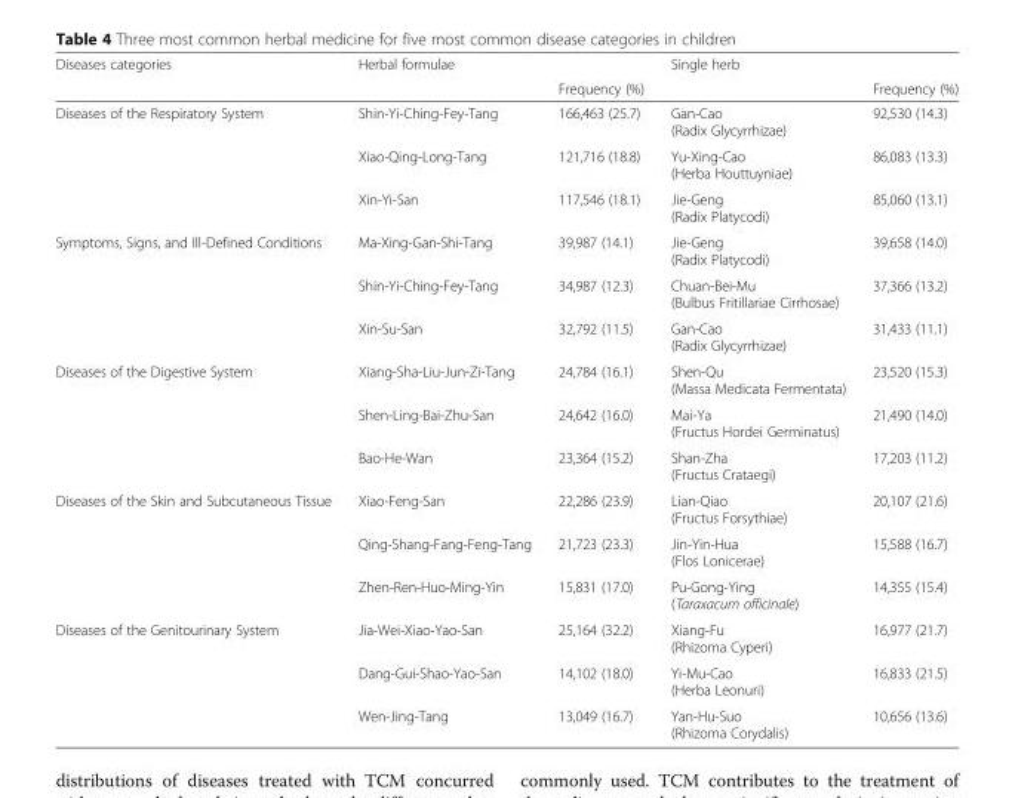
<table><thead><tr><td rowspan="2">Diseases categories</td><td colspan="2">Herbal formulae</td><td colspan="2">Single herb</td></tr><tr><td></td><td>Frequency (%)</td><td></td><td>Frequency (%)</td></tr></thead><tbody><tr><td rowspan="3">Diseases of the Respiratory System</td><td>Shin-Yi-Ching-Fey-Tang</td><td>166,463 (25.7)</td><td>Gan-Cao (Radix Glycyrrhizae)</td><td>92,530 (14.3)</td></tr><tr><td>Xiao-Qing-Long-Tang</td><td>121,716 (18.8)</td><td>Yu-Xing-Cao (Herba Houttuyniae)</td><td>86,083 (13.3)</td></tr><tr><td>Xin-Yi-San</td><td>117,546 (18.1)</td><td>Jie-Geng (Radix Platycodi)</td><td>85,060 (13.1)</td></tr><tr><td rowspan="3">Symptoms, Signs, and Ill-Defined Conditions</td><td>Ma-Xing-Gan-Shi-Tang</td><td>39,987 (14.1)</td><td>Jie-Geng (Radix Platycodi)</td><td>39,658 (14.0)</td></tr><tr><td>Shin-Yi-Ching-Fey-Tang</td><td>34,987 (12.3)</td><td>Chuan-Bei-Mu (Bulbus Fritillariae Cirrhosae)</td><td>37,366 (13.2)</td></tr><tr><td>Xin-Su-San</td><td>32,792 (11.5)</td><td>Gan-Cao (Radix Glycyrrhizae)</td><td>31,433 (11.1)</td></tr><tr><td rowspan="3">Diseases of the Digestive System</td><td>Xiang-Sha-Liu-Jun-Zi-Tang</td><td>24,784 (16.1)</td><td>Shen-Qu (Massa Medicata Fermentata)</td><td>23,520 (15.3)</td></tr><tr><td>Shen-Ling-Bai-Zhu-San</td><td>24,642 (16.0)</td><td>Mai-Ya (Fructus Hordei Germinatus)</td><td>21,490 (14.0)</td></tr><tr><td>Bao-He-Wan</td><td>23,364 (15.2)</td><td>Shan-Zha (Fructus Crataegi)</td><td>17,203 (11.2)</td></tr><tr><td rowspan="3">Diseases of the Skin and Subcutaneous Tissue</td><td>Xiao-Feng-San</td><td>22,286 (23.9)</td><td>Lian-Qiao (Fructus Forsythiae)</td><td>20,107 (21.6)</td></tr><tr><td>Qing-Shang-Fang-Feng-Tang</td><td>21,723 (23.3)</td><td>Jin-Yin-Hua (Flos Lonicerae)</td><td>15,588 (16.7)</td></tr><tr><td>Zhen-Ren-Huo-Ming-Yin</td><td>15,831 (17.0)</td><td>Pu-Gong-Ying (Taraxacum officinale)</td><td>14,355 (15.4)</td></tr><tr><td rowspan="3">Diseases of the Genitourinary System</td><td>Jia-Wei-Xiao-Yao-San</td><td>25,164 (32.2)</td><td>Xiang-Fu (Rhizoma Cyperi)</td><td>16,977 (21.7)</td></tr><tr><td>Dang-Gui-Shao-Yao-San</td><td>14,102 (18.0)</td><td>Yi-Mu-Cao (Herba Leonuri)</td><td>16,833 (21.5)</td></tr><tr><td>Wen-Jing-Tang</td><td>13,049 (16.7)</td><td>Yan-Hu-Suo (Rhizoma Corydalis)</td><td>10,656 (13.6)</td></tr></tbody></table>